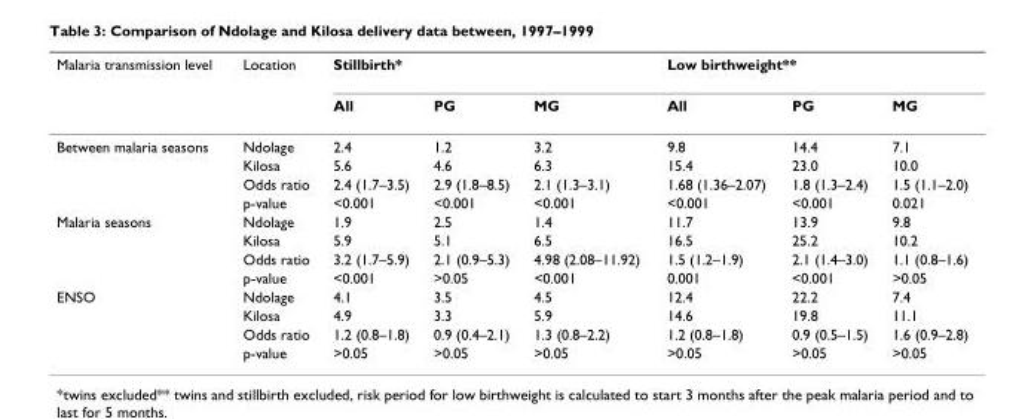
<table><thead><tr><td rowspan="2">Malaria transmission level</td><td rowspan="2">Location</td><td colspan="3">Stillbirth*</td><td colspan="3">Low birthweight**</td></tr><tr><td>All</td><td>PG</td><td>MG</td><td>All</td><td>PG</td><td>MG</td></tr></thead><tbody><tr><td rowspan="4">Between malaria seasons</td><td>Ndolage</td><td>2.4</td><td>1.2</td><td>3.2</td><td>9.8</td><td>14.4</td><td>7.1</td></tr><tr><td>Kilosa</td><td>5.6</td><td>4.6</td><td>6.3</td><td>15.4</td><td>23.0</td><td>10.0</td></tr><tr><td>Odds ratio</td><td>2.4 (1.7–3.5)</td><td>2.9 (1.8–8.5)</td><td>2.1 (1.3–3.1)</td><td>1.68 (1.36–2.07)</td><td>1.8 (1.3–2.4)</td><td>1.5 (1.1–2.0)</td></tr><tr><td>p-value</td><td>&lt;0.001</td><td>&lt;0.001</td><td>&lt;0.001</td><td>&lt;0.001</td><td>&lt;0.001</td><td>0.021</td></tr><tr><td rowspan="4">Malaria seasons</td><td>Ndolage</td><td>1.9</td><td>2.5</td><td>1.4</td><td>11.7</td><td>13.9</td><td>9.8</td></tr><tr><td>Kilosa</td><td>5.9</td><td>5.1</td><td>6.5</td><td>16.5</td><td>25.2</td><td>10.2</td></tr><tr><td>Odds ratio</td><td>3.2 (1.7–5.9)</td><td>2.1 (0.9–5.3)</td><td>4.98 (2.08–11.92)</td><td>1.5 (1.2–1.9)</td><td>2.1 (1.4–3.0)</td><td>1.1 (0.8–1.6)</td></tr><tr><td>p-value</td><td>&lt;0.001</td><td>&gt;0.05</td><td>&lt;0.001</td><td>0.001</td><td>&lt;0.001</td><td>&gt;0.05</td></tr><tr><td rowspan="4">ENSO</td><td>Ndolage</td><td>4.1</td><td>3.5</td><td>4.5</td><td>12.4</td><td>22.2</td><td>7.4</td></tr><tr><td>Kilosa</td><td>4.9</td><td>3.3</td><td>5.9</td><td>14.6</td><td>19.8</td><td>11.1</td></tr><tr><td>Odds ratio</td><td>1.2 (0.8–1.8)</td><td>0.9 (0.4–2.1)</td><td>1.3 (0.8–2.2)</td><td>1.2 (0.8–1.8)</td><td>0.9 (0.5–1.5)</td><td>1.6 (0.9–2.8)</td></tr><tr><td>p-value</td><td>&gt;0.05</td><td>&gt;0.05</td><td>&gt;0.05</td><td>&gt;0.05</td><td>&gt;0.05</td><td>&gt;0.05</td></tr></tbody></table>